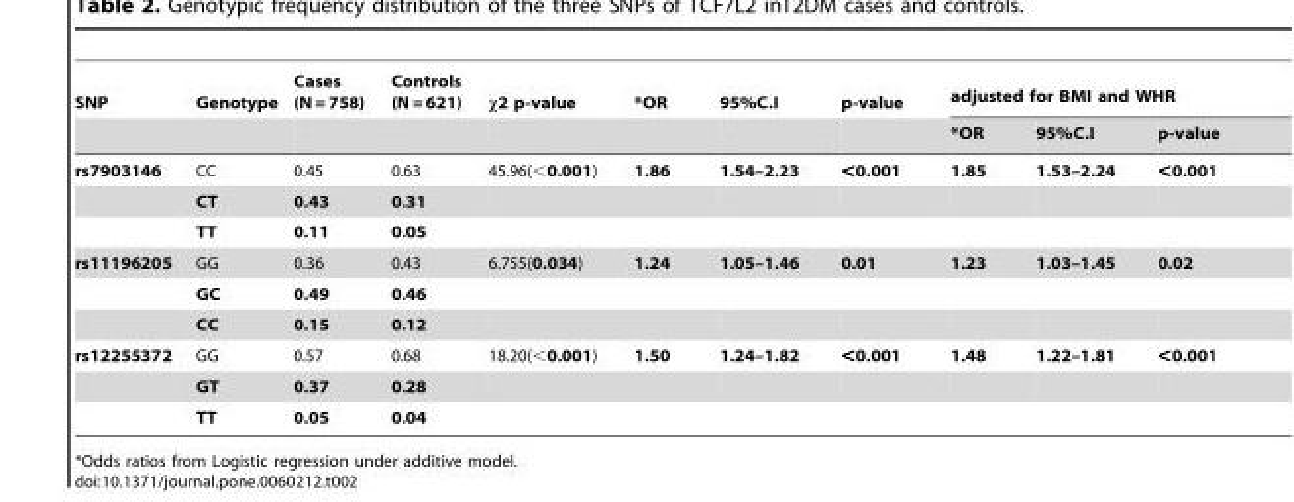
<table><thead><tr><td rowspan="2">SNP</td><td rowspan="2">Genotype</td><td rowspan="2">Cases (N = 758)</td><td rowspan="2">Controls (N = 621)</td><td rowspan="2">χ2 p-value</td><td rowspan="2">*OR</td><td rowspan="2">95%C.I</td><td rowspan="2">p-value</td><td colspan="3">adjusted for BMI and WHR</td></tr><tr><td>*OR</td><td>95%C.I</td><td>p-value</td></tr></thead><tbody><tr><td rowspan="3">rs7903146</td><td>CC</td><td>0.45</td><td>0.63</td><td>45.96(&lt;0.001)</td><td>1.86</td><td>1.54–2.23</td><td>&lt;0.001</td><td>1.85</td><td>1.53–2.24</td><td>&lt;0.001</td></tr><tr><td>CT</td><td>0.43</td><td>0.31</td><td></td><td></td><td></td><td></td><td></td><td></td><td></td></tr><tr><td>TT</td><td>0.11</td><td>0.05</td><td></td><td></td><td></td><td></td><td></td><td></td><td></td></tr><tr><td rowspan="3">rs11196205</td><td>GG</td><td>0.36</td><td>0.43</td><td>6.755(0.034)</td><td>1.24</td><td>1.05–1.46</td><td>0.01</td><td>1.23</td><td>1.03–1.45</td><td>0.02</td></tr><tr><td>GC</td><td>0.49</td><td>0.46</td><td></td><td></td><td></td><td></td><td></td><td></td><td></td></tr><tr><td>CC</td><td>0.15</td><td>0.12</td><td></td><td></td><td></td><td></td><td></td><td></td><td></td></tr><tr><td rowspan="3">rs12255372</td><td>GG</td><td>0.57</td><td>0.68</td><td>18.20(&lt;0.001)</td><td>1.50</td><td>1.24–1.82</td><td>&lt;0.001</td><td>1.48</td><td>1.22–1.81</td><td>&lt;0.001</td></tr><tr><td>GT</td><td>0.37</td><td>0.28</td><td></td><td></td><td></td><td></td><td></td><td></td><td></td></tr><tr><td>TT</td><td>0.05</td><td>0.04</td><td></td><td></td><td></td><td></td><td></td><td></td><td></td></tr></tbody></table>